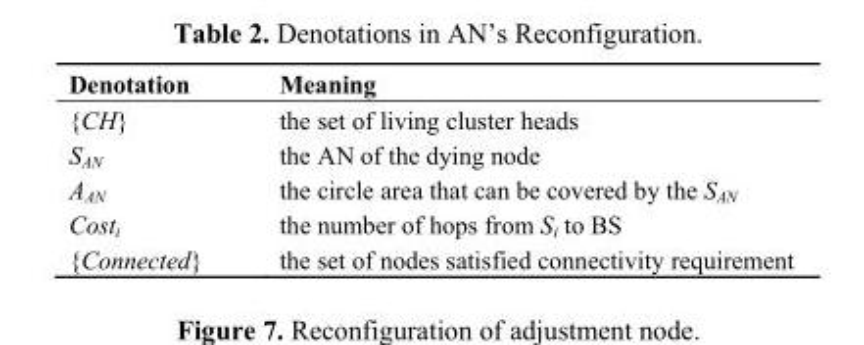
<table><thead><tr><td>Denotation</td><td>Meaning</td></tr></thead><tbody><tr><td>{CH}</td><td>the set of living cluster heads</td></tr><tr><td>S<sub>AN</sub></td><td>the AN of the dying node</td></tr><tr><td>A<sub>AN</sub></td><td>the circle area that can be covered by the S<sub>AN</sub></td></tr><tr><td>Cost<sub>i</sub></td><td>the number of hops from S<sub>i</sub> to BS</td></tr><tr><td>{Connected}</td><td>the set of nodes satisfied connectivity requirement</td></tr></tbody></table>